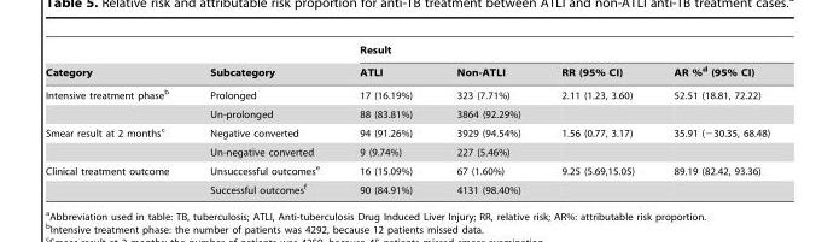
<table><thead><tr><td rowspan="2">Category</td><td rowspan="2">Subcategory</td><td colspan="4">Result</td></tr><tr><td>ATLI</td><td>Non-ATLI</td><td>RR (95% CI)</td><td>AR %<sup>d</sup> (95% CI)</td></tr></thead><tbody><tr><td rowspan="2">Intensive treatment phase<sup>b</sup></td><td>Prolonged</td><td>17 (16.19%)</td><td>323 (7.71%)</td><td>2.11 (1.23, 3.60)</td><td>52.51 (18.81, 72.22)</td></tr><tr><td>Un-prolonged</td><td>88 (83.81%)</td><td>3864 (92.29%)</td><td></td><td></td></tr><tr><td rowspan="2">Smear result at 2 months<sup>c</sup></td><td>Negative converted</td><td>94 (91.26%)</td><td>3929 (94.54%)</td><td>1.56 (0.77, 3.17)</td><td>35.91 (−30.35, 68.48)</td></tr><tr><td>Un-negative converted</td><td>9 (9.74%)</td><td>227 (5.46%)</td><td></td><td></td></tr><tr><td rowspan="2">Clinical treatment outcome</td><td>Unsuccessful outcomes<sup>e</sup></td><td>16 (15.09%)</td><td>67 (1.60%)</td><td>9.25 (5.69,15.05)</td><td>89.19 (82.42, 93.36)</td></tr><tr><td>Successful outcomes<sup>f</sup></td><td>90 (84.91%)</td><td>4131 (98.40%)</td><td></td><td></td></tr></tbody></table>